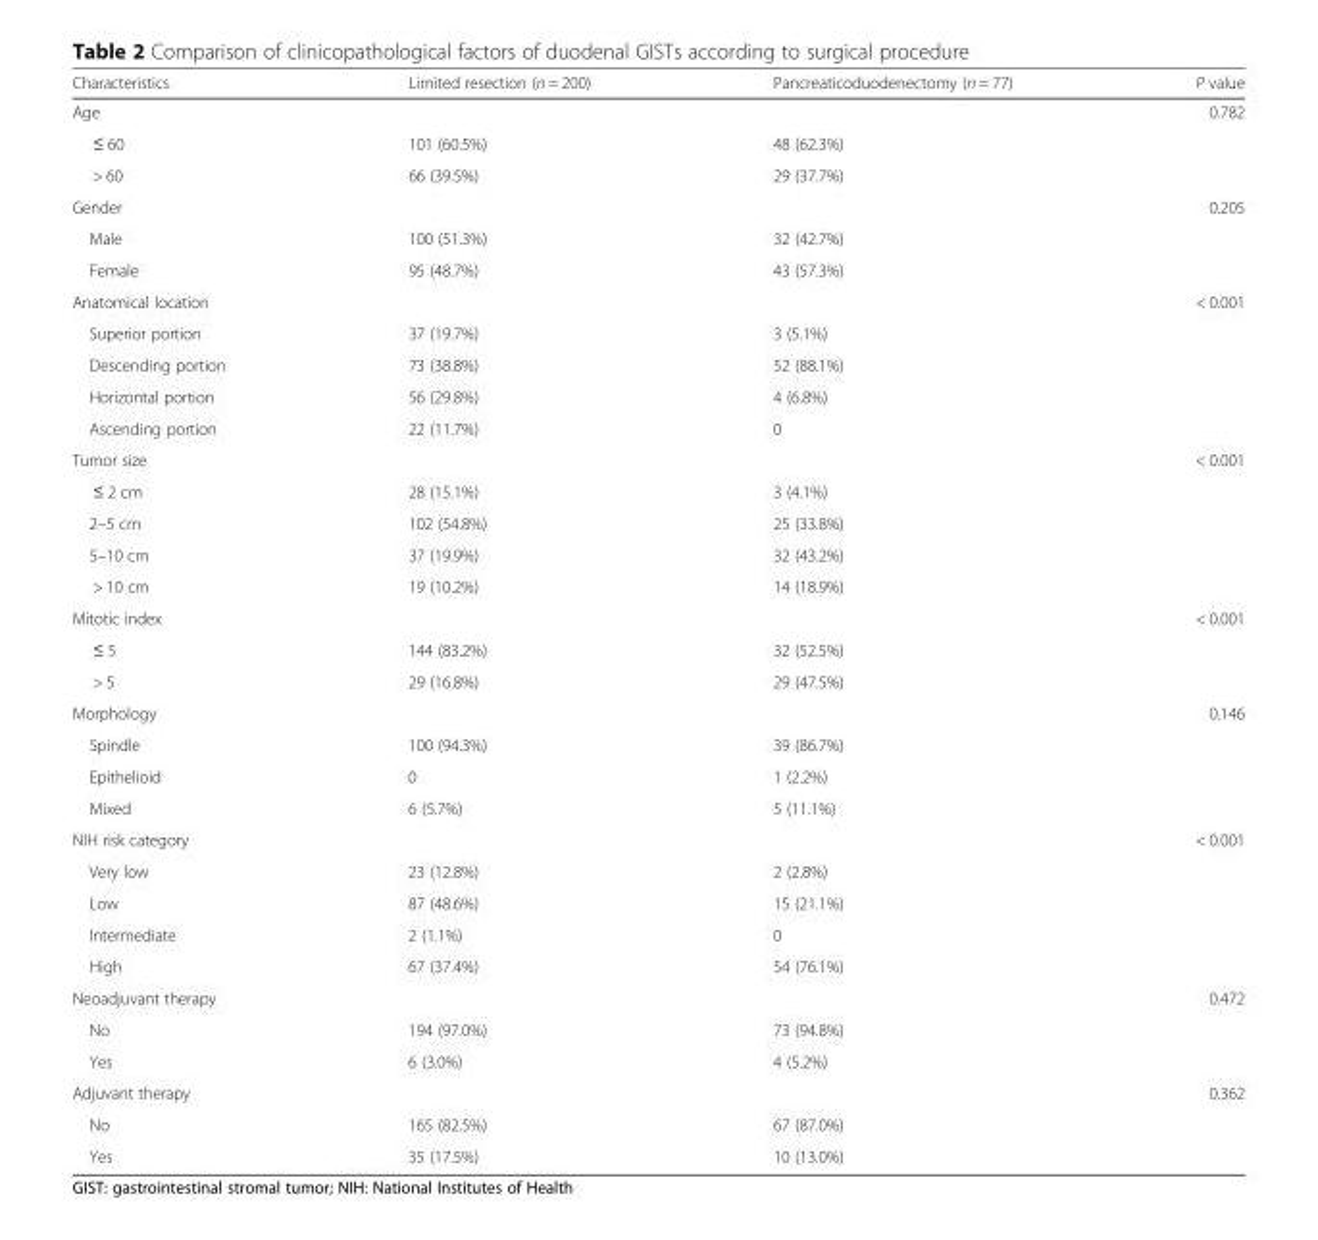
<table><thead><tr><td>Characteristics</td><td>Limited resection (n = 200)</td><td>Pancreaticoduodenectomy (n = 77)</td><td>P value</td></tr></thead><tbody><tr><td>Age</td><td></td><td></td><td>0.782</td></tr><tr><td>≤ 60</td><td>101 (60.5%)</td><td>48 (62.3%)</td><td></td></tr><tr><td>&gt; 60</td><td>66 (39.5%)</td><td>29 (37.7%)</td><td></td></tr><tr><td>Gender</td><td></td><td></td><td>0.205</td></tr><tr><td>Male</td><td>100 (51.3%)</td><td>32 (42.7%)</td><td></td></tr><tr><td>Female</td><td>95 (48.7%)</td><td>43 (57.3%)</td><td></td></tr><tr><td>Anatomical location</td><td></td><td></td><td>&lt; 0.001</td></tr><tr><td>Superior portion</td><td>37 (19.7%)</td><td>3 (5.1%)</td><td></td></tr><tr><td>Descending portion</td><td>73 (38.8%)</td><td>52 (88.1%)</td><td></td></tr><tr><td>Horizontal portion</td><td>56 (29.8%)</td><td>4 (6.8%)</td><td></td></tr><tr><td>Ascending portion</td><td>22 (11.7%)</td><td>0</td><td></td></tr><tr><td>Tumor size</td><td></td><td></td><td>&lt; 0.001</td></tr><tr><td>≤ 2 cm</td><td>28 (15.1%)</td><td>3 (4.1%)</td><td></td></tr><tr><td>2–5 cm</td><td>102 (54.8%)</td><td>25 (33.8%)</td><td></td></tr><tr><td>5–10 cm</td><td>37 (19.9%)</td><td>32 (43.2%)</td><td></td></tr><tr><td>&gt; 10 cm</td><td>19 (10.2%)</td><td>14 (18.9%)</td><td></td></tr><tr><td>Mitotic index</td><td></td><td></td><td>&lt; 0.001</td></tr><tr><td>≤ 5</td><td>144 (83.2%)</td><td>32 (52.5%)</td><td></td></tr><tr><td>&gt; 5</td><td>29 (16.8%)</td><td>29 (47.5%)</td><td></td></tr><tr><td>Morphology</td><td></td><td></td><td>0.146</td></tr><tr><td>Spindle</td><td>100 (94.3%)</td><td>39 (86.7%)</td><td></td></tr><tr><td>Epithelioid</td><td>0</td><td>1 (2.2%)</td><td></td></tr><tr><td>Mixed</td><td>6 (5.7%)</td><td>5 (11.1%)</td><td></td></tr><tr><td>NIH risk category</td><td></td><td></td><td>&lt; 0.001</td></tr><tr><td>Very low</td><td>23 (12.8%)</td><td>2 (2.8%)</td><td></td></tr><tr><td>Low</td><td>87 (48.6%)</td><td>15 (21.1%)</td><td></td></tr><tr><td>Intermediate</td><td>2 (1.1%)</td><td>0</td><td></td></tr><tr><td>High</td><td>67 (37.4%)</td><td>54 (76.1%)</td><td></td></tr><tr><td>Neoadjuvant therapy</td><td></td><td></td><td>0.472</td></tr><tr><td>No</td><td>194 (97.0%)</td><td>73 (94.8%)</td><td></td></tr><tr><td>Yes</td><td>6 (3.0%)</td><td>4 (5.2%)</td><td></td></tr><tr><td>Adjuvant therapy</td><td></td><td></td><td>0.362</td></tr><tr><td>No</td><td>165 (82.5%)</td><td>67 (87.0%)</td><td></td></tr><tr><td>Yes</td><td>35 (17.5%)</td><td>10 (13.0%)</td><td></td></tr></tbody></table>